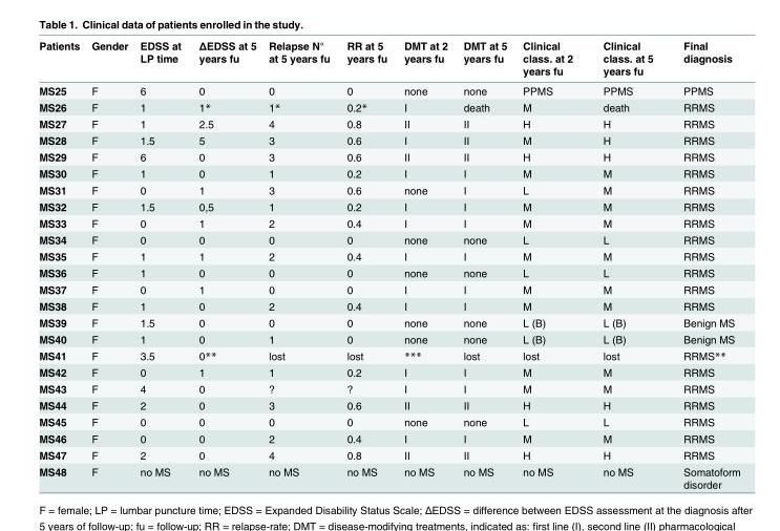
<table><thead><tr><td>Patients</td><td>Gender</td><td>EDSS at LP time</td><td>ΔEDSS at 5 years fu</td><td>Relapse N° at 5 years fu</td><td>RR at 5 years fu</td><td>DMT at 2 years fu</td><td>DMT at 5 years fu</td><td>Clinical class. at 2 years fu</td><td>Clinical class. at 5 years fu</td><td>Final diagnosis</td></tr></thead><tbody><tr><td>MS25</td><td>F</td><td>6</td><td>0</td><td>0</td><td>0</td><td>none</td><td>none</td><td>PPMS</td><td>PPMS</td><td>PPMS</td></tr><tr><td>MS26</td><td>F</td><td>1</td><td>1*</td><td>1*</td><td>0.2*</td><td>I</td><td>death</td><td>M</td><td>death</td><td>RRMS</td></tr><tr><td>MS27</td><td>F</td><td>1</td><td>2.5</td><td>4</td><td>0.8</td><td>II</td><td>II</td><td>H</td><td>H</td><td>RRMS</td></tr><tr><td>MS28</td><td>F</td><td>1.5</td><td>5</td><td>3</td><td>0.6</td><td>I</td><td>II</td><td>M</td><td>H</td><td>RRMS</td></tr><tr><td>MS29</td><td>F</td><td>6</td><td>0</td><td>3</td><td>0.6</td><td>II</td><td>II</td><td>H</td><td>H</td><td>RRMS</td></tr><tr><td>MS30</td><td>F</td><td>1</td><td>0</td><td>1</td><td>0.2</td><td>I</td><td>I</td><td>M</td><td>M</td><td>RRMS</td></tr><tr><td>MS31</td><td>F</td><td>0</td><td>1</td><td>3</td><td>0.6</td><td>none</td><td>I</td><td>L</td><td>M</td><td>RRMS</td></tr><tr><td>MS32</td><td>F</td><td>1.5</td><td>0,5</td><td>1</td><td>0.2</td><td>I</td><td>I</td><td>M</td><td>M</td><td>RRMS</td></tr><tr><td>MS33</td><td>F</td><td>0</td><td>1</td><td>2</td><td>0.4</td><td>I</td><td>I</td><td>M</td><td>M</td><td>RRMS</td></tr><tr><td>MS34</td><td>F</td><td>0</td><td>0</td><td>0</td><td>0</td><td>none</td><td>none</td><td>L</td><td>L</td><td>RRMS</td></tr><tr><td>MS35</td><td>F</td><td>1</td><td>1</td><td>2</td><td>0.4</td><td>I</td><td>I</td><td>M</td><td>M</td><td>RRMS</td></tr><tr><td>MS36</td><td>F</td><td>1</td><td>0</td><td>0</td><td>0</td><td>none</td><td>none</td><td>L</td><td>L</td><td>RRMS</td></tr><tr><td>MS37</td><td>F</td><td>0</td><td>1</td><td>0</td><td>0</td><td>I</td><td>I</td><td>M</td><td>M</td><td>RRMS</td></tr><tr><td>MS38</td><td>F</td><td>1</td><td>0</td><td>2</td><td>0.4</td><td>I</td><td>I</td><td>M</td><td>M</td><td>RRMS</td></tr><tr><td>MS39</td><td>F</td><td>1.5</td><td>0</td><td>0</td><td>0</td><td>none</td><td>none</td><td>L (B)</td><td>L (B)</td><td>Benign MS</td></tr><tr><td>MS40</td><td>F</td><td>1</td><td>0</td><td>1</td><td>0</td><td>none</td><td>none</td><td>L (B)</td><td>L (B)</td><td>Benign MS</td></tr><tr><td>MS41</td><td>F</td><td>3.5</td><td>0**</td><td>lost</td><td>lost</td><td>***</td><td>lost</td><td>lost</td><td>lost</td><td>RRMS**</td></tr><tr><td>MS42</td><td>F</td><td>0</td><td>1</td><td>1</td><td>0.2</td><td>I</td><td>I</td><td>M</td><td>M</td><td>RRMS</td></tr><tr><td>MS43</td><td>F</td><td>4</td><td>0</td><td>?</td><td>?</td><td>I</td><td>I</td><td>M</td><td>M</td><td>RRMS</td></tr><tr><td>MS44</td><td>F</td><td>2</td><td>0</td><td>3</td><td>0.6</td><td>II</td><td>II</td><td>H</td><td>H</td><td>RRMS</td></tr><tr><td>MS45</td><td>F</td><td>0</td><td>0</td><td>0</td><td>0</td><td>none</td><td>none</td><td>L</td><td>L</td><td>RRMS</td></tr><tr><td>MS46</td><td>F</td><td>0</td><td>0</td><td>2</td><td>0.4</td><td>I</td><td>I</td><td>M</td><td>M</td><td>RRMS</td></tr><tr><td>MS47</td><td>F</td><td>2</td><td>0</td><td>4</td><td>0.8</td><td>II</td><td>II</td><td>H</td><td>H</td><td>RRMS</td></tr><tr><td>MS48</td><td>F</td><td>no MS</td><td>no MS</td><td>no MS</td><td>no MS</td><td>no MS</td><td>no MS</td><td>no MS</td><td>no MS</td><td>Somatoform disorder</td></tr></tbody></table>